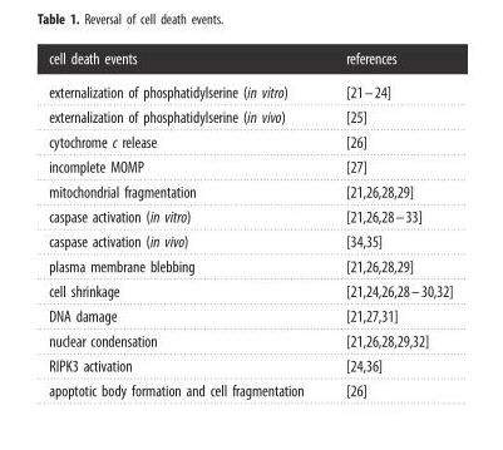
<table><thead><tr><td>cell death events</td><td>references</td></tr></thead><tbody><tr><td>externalization of phosphatidylserine (in vitro)</td><td>[21–24]</td></tr><tr><td>externalization of phosphatidylserine (in vivo)</td><td>[25]</td></tr><tr><td>cytochrome c release</td><td>[26]</td></tr><tr><td>incomplete MOMP</td><td>[27]</td></tr><tr><td>mitochondrial fragmentation</td><td>[21,26,28,29]</td></tr><tr><td>caspase activation (in vitro)</td><td>[21,26,28–33]</td></tr><tr><td>caspase activation (in vivo)</td><td>[34,35]</td></tr><tr><td>plasma membrane blebbing</td><td>[21,26,28,29]</td></tr><tr><td>cell shrinkage</td><td>[21,24,26,28–30,32]</td></tr><tr><td>DNA damage</td><td>[21,27,31]</td></tr><tr><td>nuclear condensation</td><td>[21,26,28,29,32]</td></tr><tr><td>RIPK3 activation</td><td>[24,36]</td></tr><tr><td>apoptotic body formation and cell fragmentation</td><td>[26]</td></tr></tbody></table>